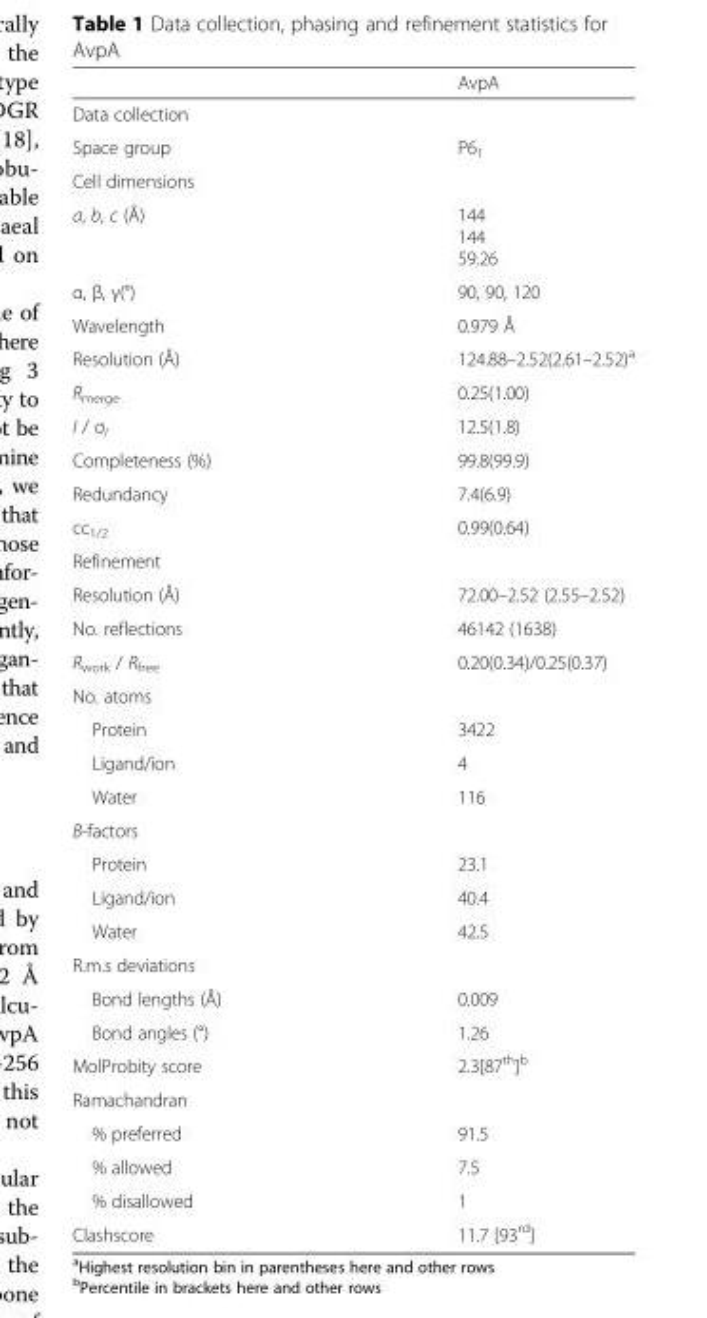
<table><thead><tr><td></td><td>AvpA</td></tr></thead><tbody><tr><td colspan="2">Data collection</td></tr><tr><td>Space group</td><td>P6<sub>1</sub></td></tr><tr><td colspan="2">Cell dimensions</td></tr><tr><td>a, b, c (Å)</td><td>144 144 59.26</td></tr><tr><td>α, β, γ(°)</td><td>90, 90, 120</td></tr><tr><td>Wavelength</td><td>0.979 Å</td></tr><tr><td>Resolution (Å)</td><td>124.88–2.52(2.61–2.52)<sup>a</sup></td></tr><tr><td>R<sub>merge</sub></td><td>0.25(1.00)</td></tr><tr><td>I / σ<sub>I</sub></td><td>12.5(1.8)</td></tr><tr><td>Completeness (%)</td><td>99.8(99.9)</td></tr><tr><td>Redundancy</td><td>7.4(6.9)</td></tr><tr><td>cc<sub>1/2</sub></td><td>0.99(0.64)</td></tr><tr><td colspan="2">Refinement</td></tr><tr><td>Resolution (Å)</td><td>72.00–2.52 (2.55–2.52)</td></tr><tr><td>No. reflections</td><td>46142 (1638)</td></tr><tr><td>R<sub>work</sub> / R<sub>free</sub></td><td>0.20(0.34)/0.25(0.37)</td></tr><tr><td colspan="2">No. atoms</td></tr><tr><td>Protein</td><td>3422</td></tr><tr><td>Ligand/ion</td><td>4</td></tr><tr><td>Water</td><td>116</td></tr><tr><td colspan="2">B-factors</td></tr><tr><td>Protein</td><td>23.1</td></tr><tr><td>Ligand/ion</td><td>40.4</td></tr><tr><td>Water</td><td>42.5</td></tr><tr><td colspan="2">R.m.s deviations</td></tr><tr><td>Bond lengths (Å)</td><td>0.009</td></tr><tr><td>Bond angles (°)</td><td>1.26</td></tr><tr><td>MolProbity score</td><td>2.3[87<sup>th</sup>]<sup>b</sup></td></tr><tr><td colspan="2">Ramachandran</td></tr><tr><td>% preferred</td><td>91.5</td></tr><tr><td>% allowed</td><td>7.5</td></tr><tr><td>% disallowed</td><td>1</td></tr><tr><td>Clashscore</td><td>11.7 [93<sup>rd</sup>]</td></tr></tbody></table>